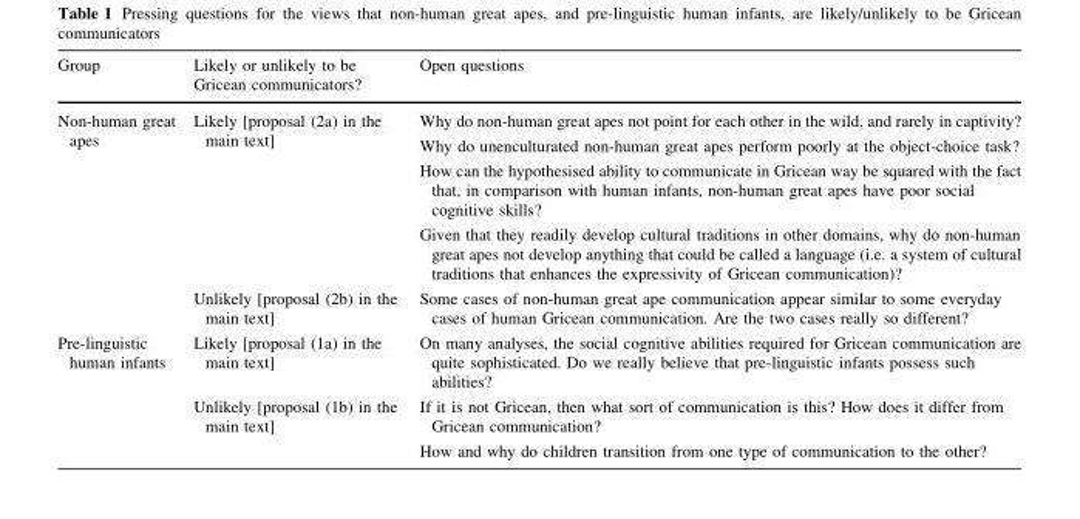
<table><thead><tr><td>Group</td><td>Likely or unlikely to be Gricean communicators?</td><td>Open questions</td></tr></thead><tbody><tr><td rowspan="2">Non-human great apes</td><td>Likely [proposal (2a) in the main text]</td><td>Why do non-human great apes not point for each other in the wild, and rarely in captivity? Why do unenculturated non-human great apes perform poorly at the object-choice task? How can the hypothesised ability to communicate in Gricean way be squared with the fact that, in comparison with human infants, non-human great apes have poor social cognitive skills? Given that they readily develop cultural traditions in other domains, why do non-human great apes not develop anything that could be called a language (i.e. a system of cultural traditions that enhances the expressivity of Gricean communication)?</td></tr><tr><td>Unlikely [proposal (2b) in the main text]</td><td>Some cases of non-human great ape communication appear similar to some everyday cases of human Gricean communication. Are the two cases really so different?</td></tr><tr><td rowspan="2">Pre-linguistic human infants</td><td>Likely [proposal (1a) in the main text]</td><td>On many analyses, the social cognitive abilities required for Gricean communication are quite sophisticated. Do we really believe that pre-linguistic infants possess such abilities?</td></tr><tr><td>Unlikely [proposal (1b) in the main text]</td><td>If it is not Gricean, then what sort of communication is this? How does it differ from Gricean communication? How and why do children transition from one type of communication to the other?</td></tr></tbody></table>